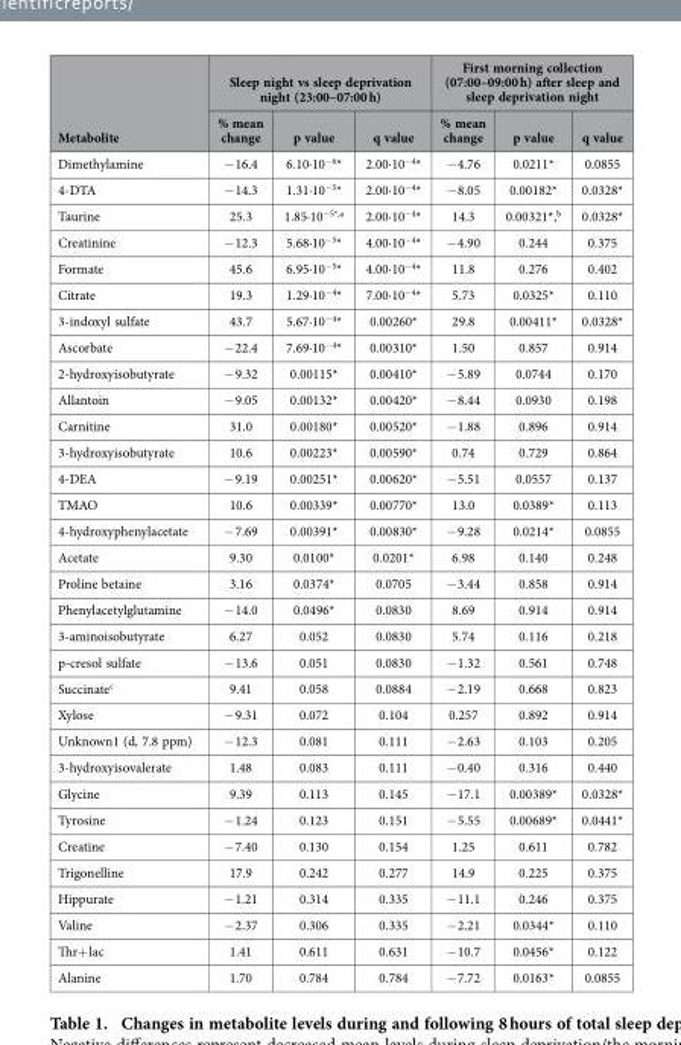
<table><thead><tr><td rowspan="2">Metabolite</td><td colspan="3">Sleep night vs sleep deprivation night (23:00–07:00 h)</td><td colspan="3">First morning collection (07:00–09:00 h) after sleep and sleep deprivation night</td></tr><tr><td>% mean change</td><td>p value</td><td>q value</td><td>% mean change</td><td>p value</td><td>q value</td></tr></thead><tbody><tr><td>Dimethylamine</td><td>− 16.4</td><td>6.10·10<sup>−6</sup>*</td><td>2.00·10<sup>−4</sup>*</td><td>− 4.76</td><td>0.0211*</td><td>0.0855</td></tr><tr><td>4-DTA</td><td>− 14.3</td><td>1.31·10<sup>−5</sup>*</td><td>2.00·10<sup>−4</sup>*</td><td>− 8.05</td><td>0.00182*</td><td>0.0328*</td></tr><tr><td>Taurine</td><td>25.3</td><td>1.85·10<sup>−5</sup>*,<sup>a</sup></td><td>2.00·10<sup>−4</sup>*</td><td>14.3</td><td>0.00321*,<sup>b</sup></td><td>0.0328*</td></tr><tr><td>Creatinine</td><td>− 12.3</td><td>5.68·10<sup>−5</sup>*</td><td>4.00·10<sup>−4</sup>*</td><td>− 4.90</td><td>0.244</td><td>0.375</td></tr><tr><td>Formate</td><td>45.6</td><td>6.95·10<sup>−5</sup>*</td><td>4.00·10<sup>−4</sup>*</td><td>11.8</td><td>0.276</td><td>0.402</td></tr><tr><td>Citrate</td><td>19.3</td><td>1.29·10<sup>−4</sup>*</td><td>7.00·10<sup>−4</sup>*</td><td>5.73</td><td>0.0325*</td><td>0.110</td></tr><tr><td>3-indoxyl sulfate</td><td>43.7</td><td>5.67·10<sup>−4</sup>*</td><td>0.00260*</td><td>29.8</td><td>0.00411*</td><td>0.0328*</td></tr><tr><td>Ascorbate</td><td>− 22.4</td><td>7.69·10<sup>−4</sup>*</td><td>0.00310*</td><td>1.50</td><td>0.857</td><td>0.914</td></tr><tr><td>2-hydroxyisobutyrate</td><td>− 9.32</td><td>0.00115*</td><td>0.00410*</td><td>− 5.89</td><td>0.0744</td><td>0.170</td></tr><tr><td>Allantoin</td><td>− 9.05</td><td>0.00132*</td><td>0.00420*</td><td>− 8.44</td><td>0.0930</td><td>0.198</td></tr><tr><td>Carnitine</td><td>31.0</td><td>0.00180*</td><td>0.00520*</td><td>− 1.88</td><td>0.896</td><td>0.914</td></tr><tr><td>3-hydroxyisobutyrate</td><td>10.6</td><td>0.00223*</td><td>0.00590*</td><td>0.74</td><td>0.729</td><td>0.864</td></tr><tr><td>4-DEA</td><td>− 9.19</td><td>0.00251*</td><td>0.00620*</td><td>− 5.51</td><td>0.0557</td><td>0.137</td></tr><tr><td>TMAO</td><td>10.6</td><td>0.00339*</td><td>0.00770*</td><td>13.0</td><td>0.0389*</td><td>0.113</td></tr><tr><td>4-hydroxyphenylacetate</td><td>− 7.69</td><td>0.00391*</td><td>0.00830*</td><td>− 9.28</td><td>0.0214*</td><td>0.0855</td></tr><tr><td>Acetate</td><td>9.30</td><td>0.0100*</td><td>0.0201*</td><td>6.98</td><td>0.140</td><td>0.248</td></tr><tr><td>Proline betaine</td><td>3.16</td><td>0.0374*</td><td>0.0705</td><td>− 3.44</td><td>0.858</td><td>0.914</td></tr><tr><td>Phenylacetylglutamine</td><td>− 14.0</td><td>0.0496*</td><td>0.0830</td><td>8.69</td><td>0.914</td><td>0.914</td></tr><tr><td>3-aminoisobutyrate</td><td>6.27</td><td>0.052</td><td>0.0830</td><td>5.74</td><td>0.116</td><td>0.218</td></tr><tr><td>p-cresol sulfate</td><td>− 13.6</td><td>0.051</td><td>0.0830</td><td>− 1.32</td><td>0.561</td><td>0.748</td></tr><tr><td>Succinate<sup>c</sup></td><td>9.41</td><td>0.058</td><td>0.0884</td><td>− 2.19</td><td>0.668</td><td>0.823</td></tr><tr><td>Xylose</td><td>− 9.31</td><td>0.072</td><td>0.104</td><td>0.257</td><td>0.892</td><td>0.914</td></tr><tr><td>Unknown1 (d, 7.8 ppm)</td><td>− 12.3</td><td>0.081</td><td>0.111</td><td>− 2.63</td><td>0.103</td><td>0.205</td></tr><tr><td>3-hydroxyisovalerate</td><td>1.48</td><td>0.083</td><td>0.111</td><td>− 0.40</td><td>0.316</td><td>0.440</td></tr><tr><td>Glycine</td><td>9.39</td><td>0.113</td><td>0.145</td><td>− 17.1</td><td>0.00389*</td><td>0.0328*</td></tr><tr><td>Tyrosine</td><td>− 1.24</td><td>0.123</td><td>0.151</td><td>− 5.55</td><td>0.00689*</td><td>0.0441*</td></tr><tr><td>Creatine</td><td>− 7.40</td><td>0.130</td><td>0.154</td><td>1.25</td><td>0.611</td><td>0.782</td></tr><tr><td>Trigonelline</td><td>17.9</td><td>0.242</td><td>0.277</td><td>14.9</td><td>0.225</td><td>0.375</td></tr><tr><td>Hippurate</td><td>− 1.21</td><td>0.314</td><td>0.335</td><td>− 11.1</td><td>0.246</td><td>0.375</td></tr><tr><td>Valine</td><td>− 2.37</td><td>0.306</td><td>0.335</td><td>− 2.21</td><td>0.0344*</td><td>0.110</td></tr><tr><td>Thr+ lac</td><td>1.41</td><td>0.611</td><td>0.631</td><td>− 10.7</td><td>0.0456*</td><td>0.122</td></tr><tr><td>Alanine</td><td>1.70</td><td>0.784</td><td>0.784</td><td>− 7.72</td><td>0.0163*</td><td>0.0855</td></tr></tbody></table>